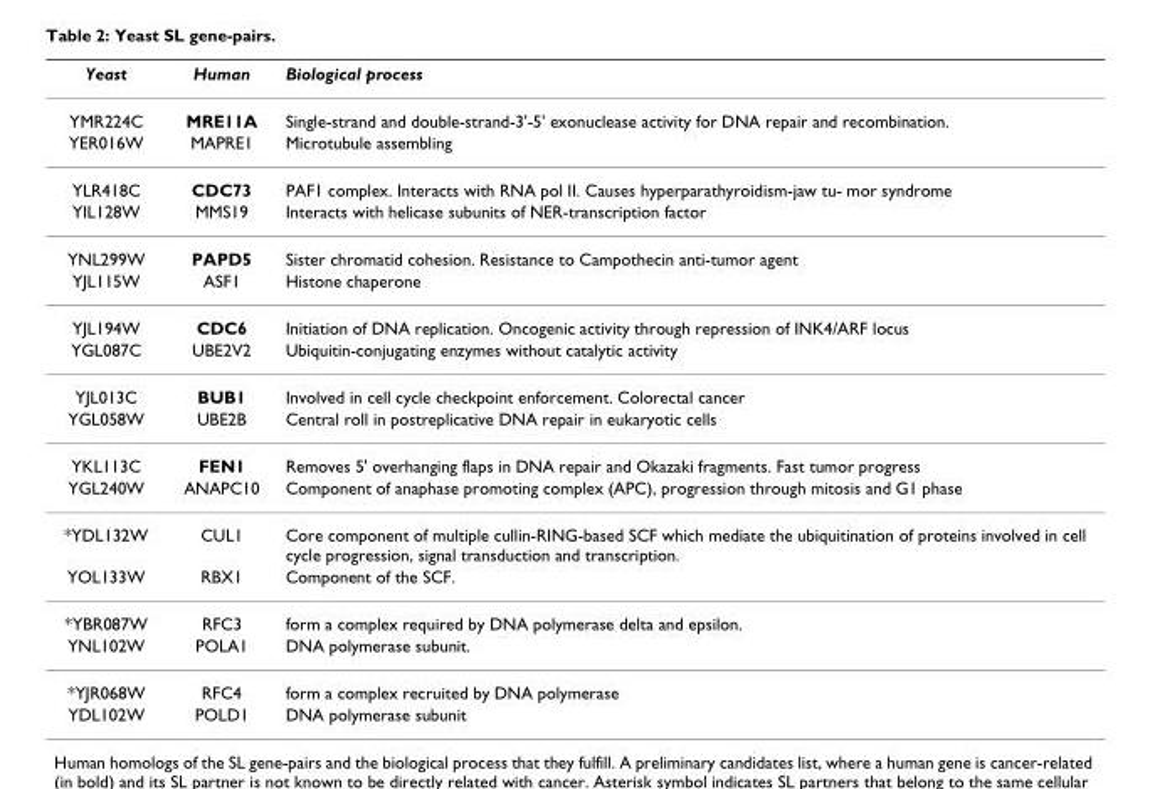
<table><thead><tr><td>Yeast</td><td>Human</td><td>Biological process</td></tr></thead><tbody><tr><td>YMR224C</td><td>MRE11A</td><td>Single-strand and double-strand-3&#x27;-5&#x27; exonuclease activity for DNA repair and recombination.</td></tr><tr><td>YER016W</td><td>MAPRE1</td><td>Microtubule assembling</td></tr><tr><td>YLR418C</td><td>CDC73</td><td>PAF1 complex. Interacts with RNA pol II. Causes hyperparathyroidism-jaw tu- mor syndrome</td></tr><tr><td>YIL128W</td><td>MMS19</td><td>Interacts with helicase subunits of NER-transcription factor</td></tr><tr><td>YNL299W</td><td>PAPD5</td><td>Sister chromatid cohesion. Resistance to Campothecin anti-tumor agent</td></tr><tr><td>YJL115W</td><td>ASF1</td><td>Histone chaperone</td></tr><tr><td>YJL194W</td><td>CDC6</td><td>Initiation of DNA replication. Oncogenic activity through repression of INK4/ARF locus</td></tr><tr><td>YGL087C</td><td>UBE2V2</td><td>Ubiquitin-conjugating enzymes without catalytic activity</td></tr><tr><td>YJL013C</td><td>BUB1</td><td>Involved in cell cycle checkpoint enforcement. Colorectal cancer</td></tr><tr><td>YGL058W</td><td>UBE2B</td><td>Central roll in postreplicative DNA repair in eukaryotic cells</td></tr><tr><td>YKL113C</td><td>FEN1</td><td>Removes 5&#x27; overhanging flaps in DNA repair and Okazaki fragments. Fast tumor progress</td></tr><tr><td>YGL240W</td><td>ANAPC10</td><td>Component of anaphase promoting complex (APC), progression through mitosis and G1 phase</td></tr><tr><td>*YDL132W</td><td>CUL1</td><td>Core component of multiple cullin-RING-based SCF which mediate the ubiquitination of proteins involved in cell cycle progression, signal transduction and transcription.</td></tr><tr><td>YOL133W</td><td>RBX1</td><td>Component of the SCF.</td></tr><tr><td>*YBR087W</td><td>RFC3</td><td>form a complex required by DNA polymerase delta and epsilon.</td></tr><tr><td>YNL102W</td><td>POLA1</td><td>DNA polymerase subunit.</td></tr><tr><td>*YJR068W</td><td>RFC4</td><td>form a complex recruited by DNA polymerase</td></tr><tr><td>YDL102W</td><td>POLD1</td><td>DNA polymerase subunit</td></tr></tbody></table>